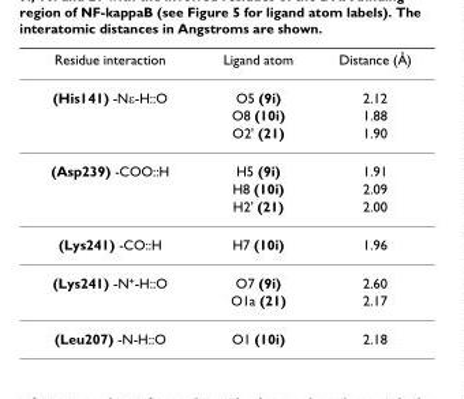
<table><thead><tr><td>Residue interaction</td><td>Ligand atom</td><td>Distance (Å)</td></tr></thead><tbody><tr><td rowspan="3">(His141) -Nε-H::O</td><td>O5 (9i)</td><td>2.12</td></tr><tr><td>O8 (10i)</td><td>1.88</td></tr><tr><td>O2&#x27; (21)</td><td>1.90</td></tr><tr><td rowspan="3">(Asp239) -COO::H</td><td>H5 (9i)</td><td>1.91</td></tr><tr><td>H8 (10i)</td><td>2.09</td></tr><tr><td>H2&#x27; (21)</td><td>2.00</td></tr><tr><td>(Lys241) -CO::H</td><td>H7 (10i)</td><td>1.96</td></tr><tr><td rowspan="2">(Lys241) -N<sup>+</sup>-H::O</td><td>O7 (9i)</td><td>2.60</td></tr><tr><td>O1a (21)</td><td>2.17</td></tr><tr><td>(Leu207) -N-H::O</td><td>O1 (10i)</td><td>2.18</td></tr></tbody></table>